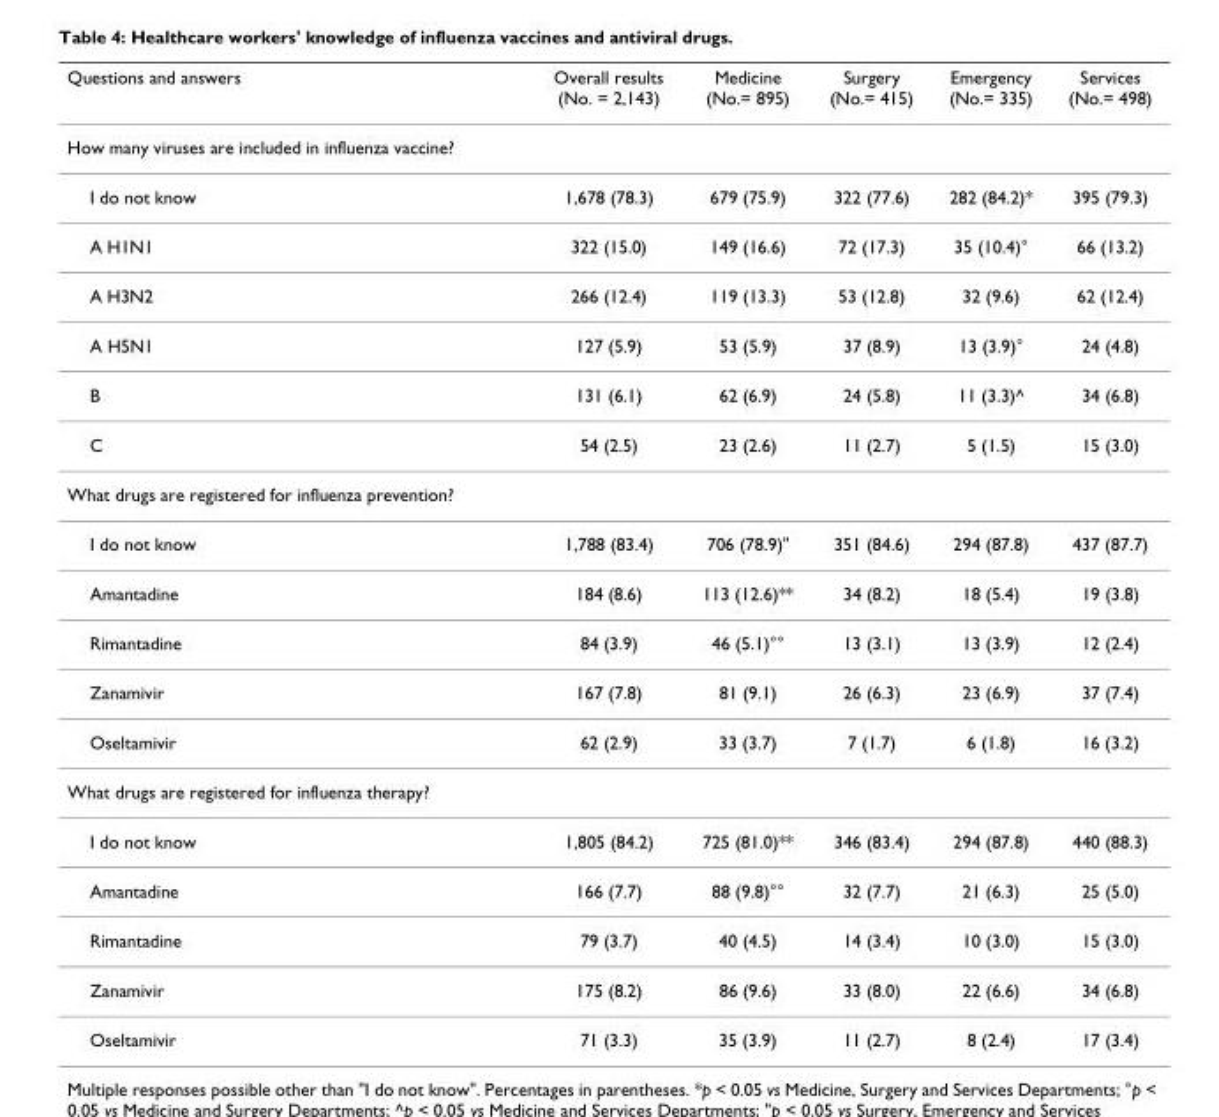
<table><thead><tr><td>Questions and answers</td><td>Overall results (No. = 2,143)</td><td>Medicine (No.= 895)</td><td>Surgery (No.= 415)</td><td>Emergency (No.= 335)</td><td>Services (No.= 498)</td></tr></thead><tbody><tr><td colspan="6">How many viruses are included in influenza vaccine?</td></tr><tr><td>I do not know</td><td>1,678 (78.3)</td><td>679 (75.9)</td><td>322 (77.6)</td><td>282 (84.2)*</td><td>395 (79.3)</td></tr><tr><td>A H1N1</td><td>322 (15.0)</td><td>149 (16.6)</td><td>72 (17.3)</td><td>35 (10.4)°</td><td>66 (13.2)</td></tr><tr><td>A H3N2</td><td>266 (12.4)</td><td>119 (13.3)</td><td>53 (12.8)</td><td>32 (9.6)</td><td>62 (12.4)</td></tr><tr><td>A H5N1</td><td>127 (5.9)</td><td>53 (5.9)</td><td>37 (8.9)</td><td>13 (3.9)°</td><td>24 (4.8)</td></tr><tr><td>B</td><td>131 (6.1)</td><td>62 (6.9)</td><td>24 (5.8)</td><td>11 (3.3)^</td><td>34 (6.8)</td></tr><tr><td>C</td><td>54 (2.5)</td><td>23 (2.6)</td><td>11 (2.7)</td><td>5 (1.5)</td><td>15 (3.0)</td></tr><tr><td colspan="6">What drugs are registered for influenza prevention?</td></tr><tr><td>I do not know</td><td>1,788 (83.4)</td><td>706 (78.9)&quot;</td><td>351 (84.6)</td><td>294 (87.8)</td><td>437 (87.7)</td></tr><tr><td>Amantadine</td><td>184 (8.6)</td><td>113 (12.6)**</td><td>34 (8.2)</td><td>18 (5.4)</td><td>19 (3.8)</td></tr><tr><td>Rimantadine</td><td>84 (3.9)</td><td>46 (5.1)°°</td><td>13 (3.1)</td><td>13 (3.9)</td><td>12 (2.4)</td></tr><tr><td>Zanamivir</td><td>167 (7.8)</td><td>81 (9.1)</td><td>26 (6.3)</td><td>23 (6.9)</td><td>37 (7.4)</td></tr><tr><td>Oseltamivir</td><td>62 (2.9)</td><td>33 (3.7)</td><td>7 (1.7)</td><td>6 (1.8)</td><td>16 (3.2)</td></tr><tr><td colspan="6">What drugs are registered for influenza therapy?</td></tr><tr><td>I do not know</td><td>1,805 (84.2)</td><td>725 (81.0)**</td><td>346 (83.4)</td><td>294 (87.8)</td><td>440 (88.3)</td></tr><tr><td>Amantadine</td><td>166 (7.7)</td><td>88 (9.8)°°</td><td>32 (7.7)</td><td>21 (6.3)</td><td>25 (5.0)</td></tr><tr><td>Rimantadine</td><td>79 (3.7)</td><td>40 (4.5)</td><td>14 (3.4)</td><td>10 (3.0)</td><td>15 (3.0)</td></tr><tr><td>Zanamivir</td><td>175 (8.2)</td><td>86 (9.6)</td><td>33 (8.0)</td><td>22 (6.6)</td><td>34 (6.8)</td></tr><tr><td>Oseltamivir</td><td>71 (3.3)</td><td>35 (3.9)</td><td>11 (2.7)</td><td>8 (2.4)</td><td>17 (3.4)</td></tr></tbody></table>